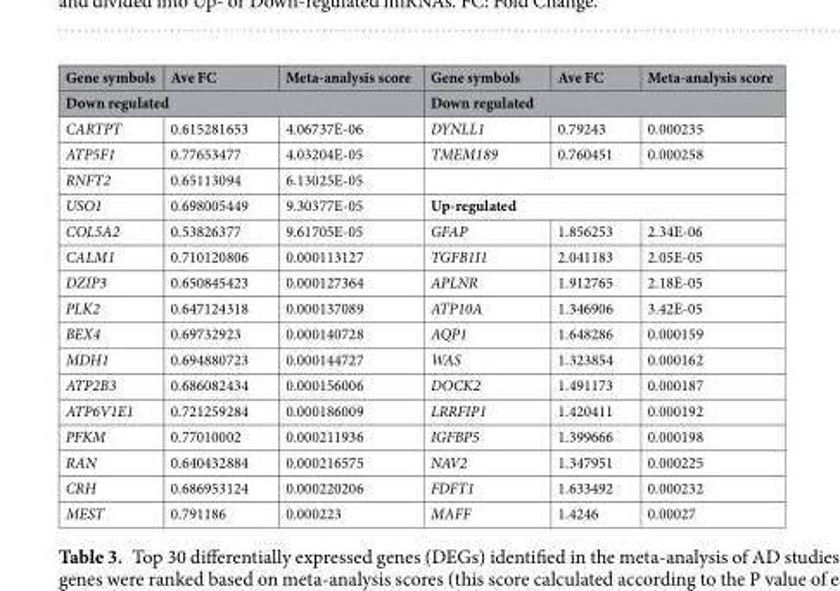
<table><thead><tr><td>Gene symbols</td><td>Ave FC</td><td>Meta-analysis score</td><td>Gene symbols</td><td>Ave FC</td><td>Meta-analysis score</td></tr><tr><td colspan="3">Down regulated</td><td colspan="3">Down regulated</td></tr></thead><tbody><tr><td>CARTPT</td><td>0.615281653</td><td>4.06737E-06</td><td>DYNLL1</td><td>0.79243</td><td>0.000235</td></tr><tr><td>ATP5F1</td><td>0.77653477</td><td>4.03204E-05</td><td>TMEM189</td><td>0.760451</td><td>0.000258</td></tr><tr><td>RNFT2</td><td>0.65113094</td><td>6.13025E-05</td><td colspan="3"></td></tr><tr><td>USO1</td><td>0.698005449</td><td>9.30377E-05</td><td colspan="3">Up-regulated</td></tr><tr><td>COL5A2</td><td>0.53826377</td><td>9.61705E-05</td><td>GFAP</td><td>1.856253</td><td>2.34E-06</td></tr><tr><td>CALM1</td><td>0.710120806</td><td>0.000113127</td><td>TGFB1I1</td><td>2.041183</td><td>2.05E-05</td></tr><tr><td>DZIP3</td><td>0.650845423</td><td>0.000127364</td><td>APLNR</td><td>1.912765</td><td>2.18E-05</td></tr><tr><td>PLK2</td><td>0.647124318</td><td>0.000137089</td><td>ATP10A</td><td>1.346906</td><td>3.42E-05</td></tr><tr><td>BEX4</td><td>0.69732923</td><td>0.000140728</td><td>AQP1</td><td>1.648286</td><td>0.000159</td></tr><tr><td>MDH1</td><td>0.694880723</td><td>0.000144727</td><td>WAS</td><td>1.323854</td><td>0.000162</td></tr><tr><td>ATP2B3</td><td>0.686082434</td><td>0.000156006</td><td>DOCK2</td><td>1.491173</td><td>0.000187</td></tr><tr><td>ATP6V1E1</td><td>0.721259284</td><td>0.000186009</td><td>LRRFIP1</td><td>1.420411</td><td>0.000192</td></tr><tr><td>PFKM</td><td>0.77010002</td><td>0.000211936</td><td>IGFBP5</td><td>1.399666</td><td>0.000198</td></tr><tr><td>RAN</td><td>0.640432884</td><td>0.000216575</td><td>NAV2</td><td>1.347951</td><td>0.000225</td></tr><tr><td>CRH</td><td>0.686953124</td><td>0.000220206</td><td>FDFT1</td><td>1.633492</td><td>0.000232</td></tr><tr><td>MEST</td><td>0.791186</td><td>0.000223</td><td>MAFF</td><td>1.4246</td><td>0.00027</td></tr></tbody></table>